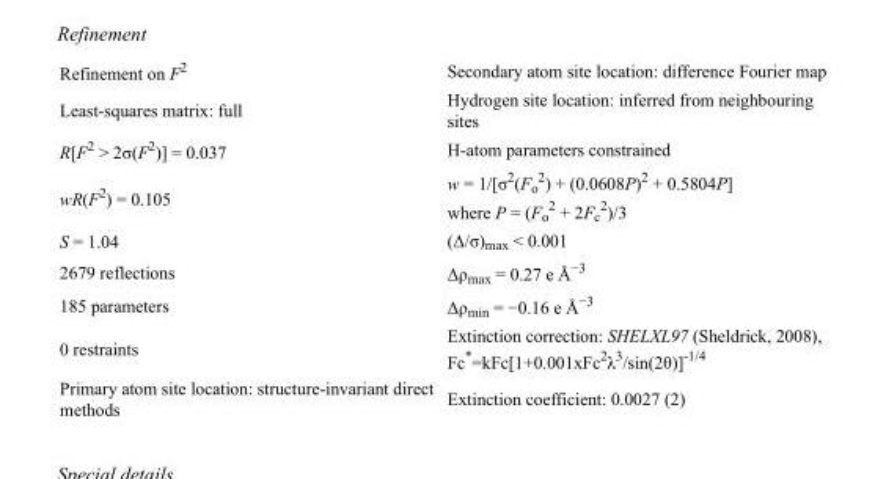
<table><tbody><tr><td>Refinement on F<sup>2</sup></td><td>Secondary atom site location: difference Fourier map</td></tr><tr><td>Least-squares matrix: full</td><td>Hydrogen site location: inferred from neighbouring sites</td></tr><tr><td>R[F<sup>2</sup> &gt; 2σ(F<sup>2</sup>)] = 0.037</td><td>H-atom parameters constrained</td></tr><tr><td>wR(F<sup>2</sup>) = 0.105</td><td>w = 1/[σ<sup>2</sup>(F<sub>o</sub> <sup>2</sup>) + (0.0608P)<sup>2</sup> + 0.5804P] where P = (F<sub>o</sub> <sup>2</sup> + 2F<sub>c</sub> <sup>2</sup>)/3</td></tr><tr><td>S = 1.04</td><td>(Δ/σ)<sub>max</sub> &lt; 0.001</td></tr><tr><td>2679 reflections</td><td>Δρ<sub>max</sub> = 0.27 e Å<sup>−3</sup></td></tr><tr><td>185 parameters</td><td>Δρ<sub>min</sub> = −0.16 e Å<sup>−3</sup></td></tr><tr><td>0 restraints</td><td>Extinction correction: SHELXL97 (Sheldrick, 2008), Fc*=kFc[1+0.001xFc<sup>2</sup>λ<sup>3</sup>/sin(2θ)]<sup>-1/4</sup></td></tr><tr><td>Primary atom site location: structure-invariant direct methods</td><td>Extinction coefficient: 0.0027 (2)</td></tr></tbody></table>